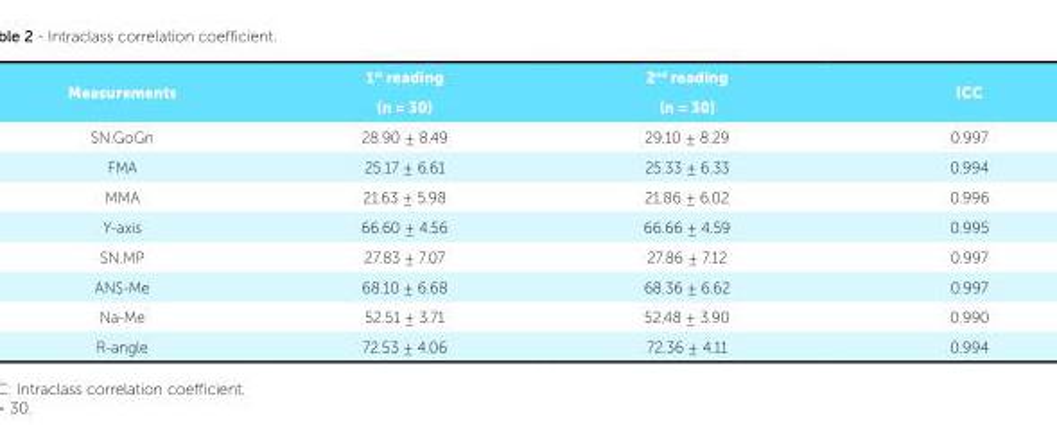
<table><tbody><tr><td rowspan="2">Measurements</td><td>1<sup>st</sup> reading</td><td>2<sup>nd</sup> reading</td><td rowspan="2">ICC</td></tr><tr><td>(n = 30)</td><td>(n = 30)</td></tr><tr><td>SN.GoGn</td><td>28.90 ± 8.49</td><td>29.10 ± 8.29</td><td>0.997</td></tr><tr><td>FMA</td><td>25.17 ± 6.61</td><td>25.33 ± 6.33</td><td>0.994</td></tr><tr><td>MMA</td><td>21.63 ± 5.98</td><td>21.86 ± 6.02</td><td>0.996</td></tr><tr><td>Y-axis</td><td>66.60 ± 4.56</td><td>66.66 ± 4.59</td><td>0.995</td></tr><tr><td>SN.MP</td><td>27.83 ± 7.07</td><td>27.86 ± 7.12</td><td>0.997</td></tr><tr><td>ANS-Me</td><td>68.10 ± 6.68</td><td>68.36 ± 6.62</td><td>0.997</td></tr><tr><td>Na-Me</td><td>52.51 ± 3.71</td><td>52.48 ± 3.90</td><td>0.990</td></tr><tr><td>R-angle</td><td>72.53 ± 4.06</td><td>72.36 ± 4.11</td><td>0.994</td></tr></tbody></table>